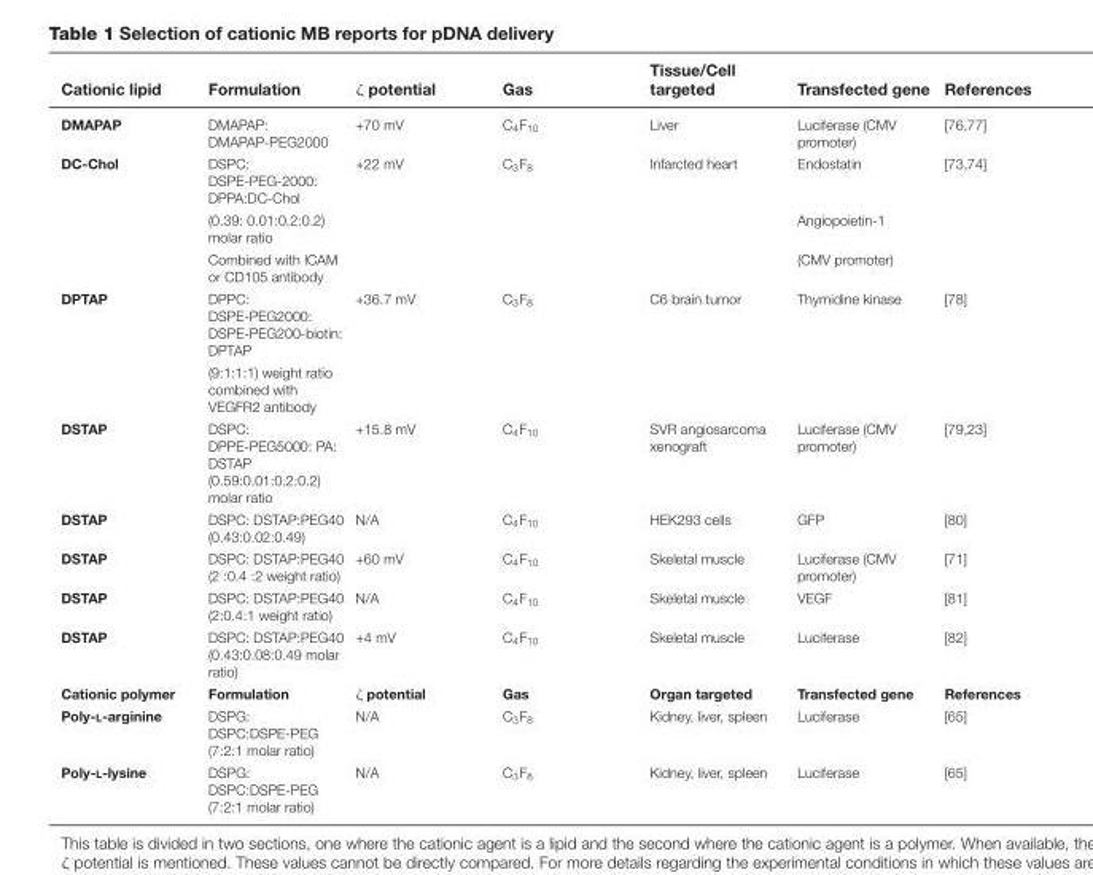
<table><thead><tr><td>Cationic lipid</td><td>Formulation</td><td>ζ potential</td><td>Gas</td><td>Tissue/Cell targeted</td><td>Transfected gene</td><td>References</td></tr></thead><tbody><tr><td>DMAPAP</td><td>DMAPAP: DMAPAP-PEG2000</td><td>+70 mV</td><td>C<sub>4</sub>F<sub>10</sub></td><td>Liver</td><td>Luciferase (CMV promoter)</td><td>[76,77]</td></tr><tr><td rowspan="3">DC-Chol</td><td>DSPC: DSPE-PEG-2000: DPPA:DC-Chol</td><td>+22 mV</td><td>C<sub>3</sub>F<sub>8</sub></td><td>Infarcted heart</td><td>Endostatin</td><td>[73,74]</td></tr><tr><td>(0.39: 0.01:0.2:0.2) molar ratio</td><td></td><td></td><td></td><td>Angiopoietin-1</td><td></td></tr><tr><td>Combined with ICAM or CD105 antibody</td><td></td><td></td><td></td><td>(CMV promoter)</td><td></td></tr><tr><td rowspan="2">DPTAP</td><td>DPPC: DSPE-PEG2000: DSPE-PEG200-biotin: DPTAP</td><td>+36.7 mV</td><td>C<sub>3</sub>F<sub>8</sub></td><td>C6 brain tumor</td><td>Thymidine kinase</td><td>[78]</td></tr><tr><td>(9:1:1:1) weight ratio combined with VEGFR2 antibody</td><td></td><td></td><td></td><td></td><td></td></tr><tr><td>DSTAP</td><td>DSPC: DPPE-PEG5000: PA: DSTAP (0.59:0.01:0.2:0.2) molar ratio</td><td>+15.8 mV</td><td>C<sub>4</sub>F<sub>10</sub></td><td>SVR angiosarcoma xenograft</td><td>Luciferase (CMV promoter)</td><td>[79,23]</td></tr><tr><td>DSTAP</td><td>DSPC: DSTAP:PEG40 (0.43:0.02:0.49)</td><td>N/A</td><td>C<sub>4</sub>F<sub>10</sub></td><td>HEK293 cells</td><td>GFP</td><td>[80]</td></tr><tr><td>DSTAP</td><td>DSPC: DSTAP:PEG40 (2 :0.4 :2 weight ratio)</td><td>+60 mV</td><td>C<sub>4</sub>F<sub>10</sub></td><td>Skeletal muscle</td><td>Luciferase (CMV promoter)</td><td>[71]</td></tr><tr><td>DSTAP</td><td>DSPC: DSTAP:PEG40 (2:0.4:1 weight ratio)</td><td>N/A</td><td>C<sub>4</sub>F<sub>10</sub></td><td>Skeletal muscle</td><td>VEGF</td><td>[81]</td></tr><tr><td>DSTAP</td><td>DSPC: DSTAP:PEG40 (0.43:0.08:0.49 molar ratio)</td><td>+4 mV</td><td>C<sub>4</sub>F<sub>10</sub></td><td>Skeletal muscle</td><td>Luciferase</td><td>[82]</td></tr><tr><td>Cationic polymer</td><td>Formulation</td><td>ζ potential</td><td>Gas</td><td>Organ targeted</td><td>Transfected gene</td><td>References</td></tr><tr><td>Poly-L-arginine</td><td>DSPG: DSPC:DSPE-PEG (7:2:1 molar ratio)</td><td>N/A</td><td>C<sub>3</sub>F<sub>8</sub></td><td>Kidney, liver, spleen</td><td>Luciferase</td><td>[65]</td></tr><tr><td>Poly-L-lysine</td><td>DSPG: DSPC:DSPE-PEG (7:2:1 molar ratio)</td><td>N/A</td><td>C<sub>3</sub>F<sub>8</sub></td><td>Kidney, liver, spleen</td><td>Luciferase</td><td>[65]</td></tr></tbody></table>